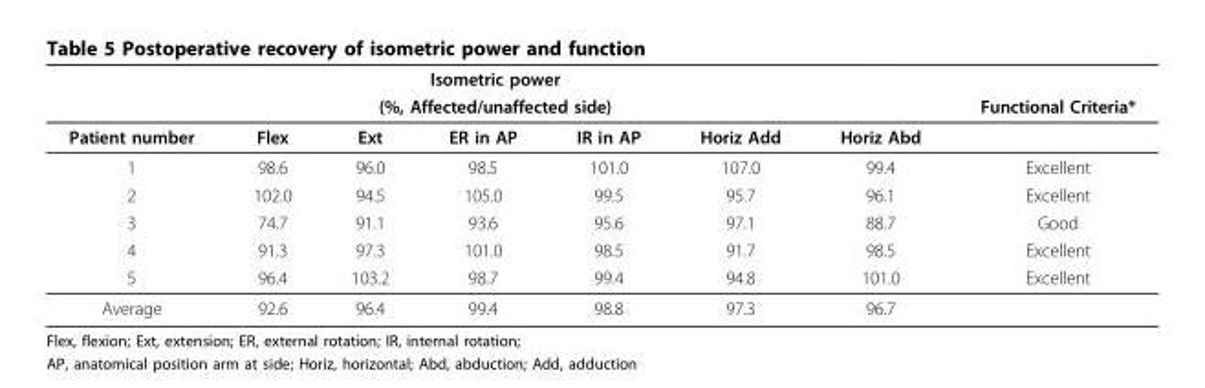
<table><thead><tr><td rowspan="2" colspan="7">Isometric power (%, Affected/unaffected side)</td><td rowspan="3">Functional Criteria*</td></tr><tr></tr><tr><td>Patient number</td><td>Flex</td><td>Ext</td><td>ER in AP</td><td>IR in AP</td><td>Horiz Add</td><td>Horiz Abd</td></tr></thead><tbody><tr><td>1</td><td>98.6</td><td>96.0</td><td>98.5</td><td>101.0</td><td>107.0</td><td>99.4</td><td>Excellent</td></tr><tr><td>2</td><td>102.0</td><td>94.5</td><td>105.0</td><td>99.5</td><td>95.7</td><td>96.1</td><td>Excellent</td></tr><tr><td>3</td><td>74.7</td><td>91.1</td><td>93.6</td><td>95.6</td><td>97.1</td><td>88.7</td><td>Good</td></tr><tr><td>4</td><td>91.3</td><td>97.3</td><td>101.0</td><td>98.5</td><td>91.7</td><td>98.5</td><td>Excellent</td></tr><tr><td>5</td><td>96.4</td><td>103.2</td><td>98.7</td><td>99.4</td><td>94.8</td><td>101.0</td><td>Excellent</td></tr><tr><td>Average</td><td>92.6</td><td>96.4</td><td>99.4</td><td>98.8</td><td>97.3</td><td>96.7</td><td></td></tr></tbody></table>